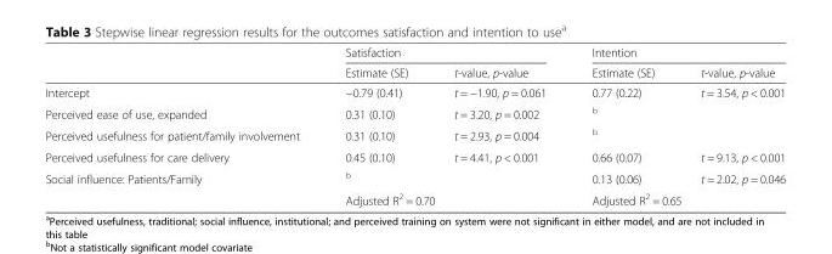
<table><thead><tr><td rowspan="2"></td><td colspan="2">Satisfaction</td><td colspan="2">Intention</td></tr><tr><td>Estimate (SE)</td><td>t-value, p-value</td><td>Estimate (SE)</td><td>t-value, p-value</td></tr></thead><tbody><tr><td>Intercept</td><td>−0.79 (0.41)</td><td>t = −1.90, p = 0.061</td><td>0.77 (0.22)</td><td>t = 3.54, p &lt; 0.001</td></tr><tr><td>Perceived ease of use, expanded</td><td>0.31 (0.10)</td><td>t = 3.20, p = 0.002</td><td colspan="2"><sup>b</sup></td></tr><tr><td>Perceived usefulness for patient/family involvement</td><td>0.31 (0.10)</td><td>t = 2.93, p = 0.004</td><td colspan="2"><sup>b</sup></td></tr><tr><td>Perceived usefulness for care delivery</td><td>0.45 (0.10)</td><td>t = 4.41, p &lt; 0.001</td><td>0.66 (0.07)</td><td>t = 9.13, p &lt; 0.001</td></tr><tr><td rowspan="2">Social influence: Patients/Family</td><td colspan="2"><sup>b</sup></td><td>0.13 (0.06)</td><td>t = 2.02, p = 0.046</td></tr><tr><td colspan="2">Adjusted R<sup>2</sup> = 0.70</td><td colspan="2">Adjusted R<sup>2</sup> = 0.65</td></tr></tbody></table>